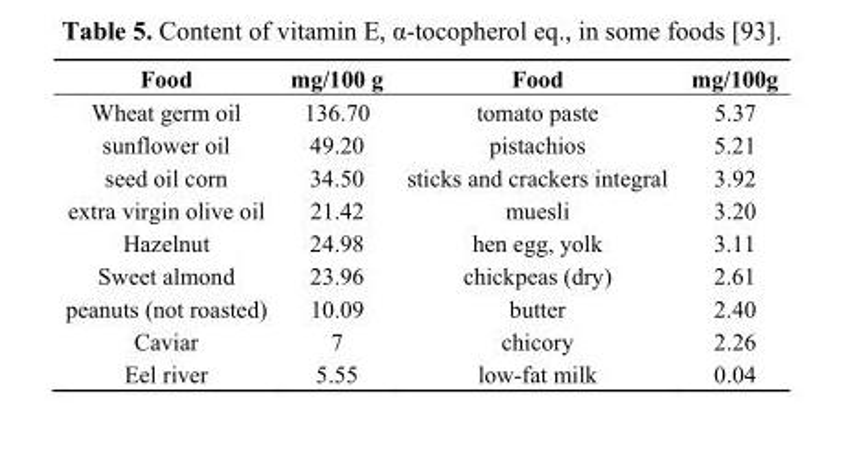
<table><thead><tr><td>Food</td><td>mg/100 g</td><td>Food</td><td>mg/100g</td></tr></thead><tbody><tr><td>Wheat germ oil</td><td>136.70</td><td>tomato paste</td><td>5.37</td></tr><tr><td>sunflower oil</td><td>49.20</td><td>pistachios</td><td>5.21</td></tr><tr><td>seed oil corn</td><td>34.50</td><td>sticks and crackers integral</td><td>3.92</td></tr><tr><td>extra virgin olive oil</td><td>21.42</td><td>muesli</td><td>3.20</td></tr><tr><td>Hazelnut</td><td>24.98</td><td>hen egg, yolk</td><td>3.11</td></tr><tr><td>Sweet almond</td><td>23.96</td><td>chickpeas (dry)</td><td>2.61</td></tr><tr><td>peanuts (not roasted)</td><td>10.09</td><td>butter</td><td>2.40</td></tr><tr><td>Caviar</td><td>7</td><td>chicory</td><td>2.26</td></tr><tr><td>Eel river</td><td>5.55</td><td>low-fat milk</td><td>0.04</td></tr></tbody></table>